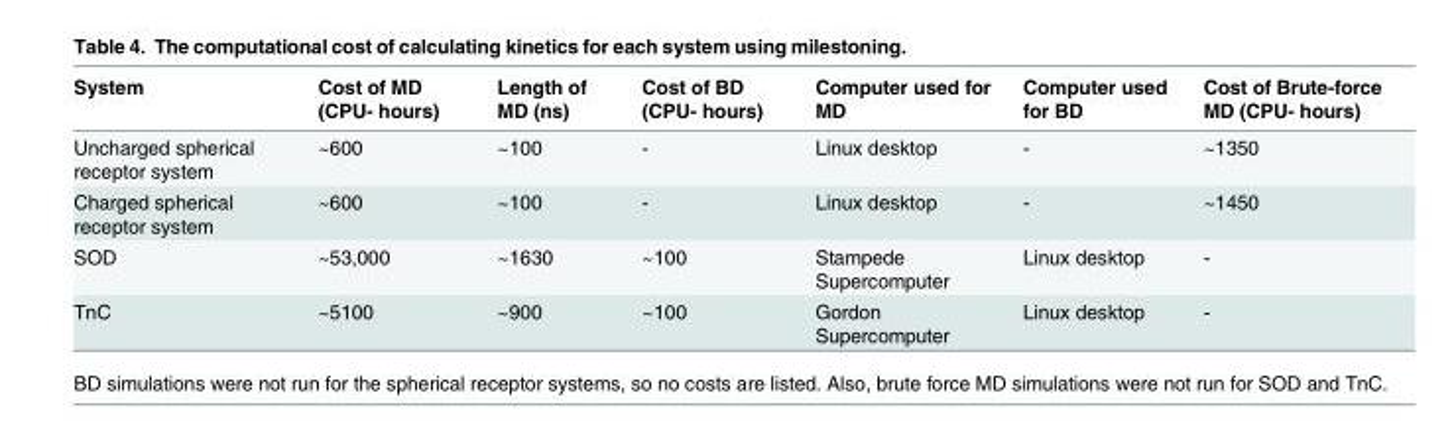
<table><thead><tr><td>System</td><td>Cost of MD (CPU- hours)</td><td>Length of MD (ns)</td><td>Cost of BD (CPU- hours)</td><td>Computer used for MD</td><td>Computer used for BD</td><td>Cost of Brute-force MD (CPU- hours)</td></tr></thead><tbody><tr><td>Uncharged spherical receptor system</td><td>~600</td><td>~100</td><td>-</td><td>Linux desktop</td><td>-</td><td>~1350</td></tr><tr><td>Charged spherical receptor system</td><td>~600</td><td>~100</td><td>-</td><td>Linux desktop</td><td>-</td><td>~1450</td></tr><tr><td>SOD</td><td>~53,000</td><td>~1630</td><td>~100</td><td>Stampede Supercomputer</td><td>Linux desktop</td><td>-</td></tr><tr><td>TnC</td><td>~5100</td><td>~900</td><td>~100</td><td>Gordon Supercomputer</td><td>Linux desktop</td><td>-</td></tr></tbody></table>